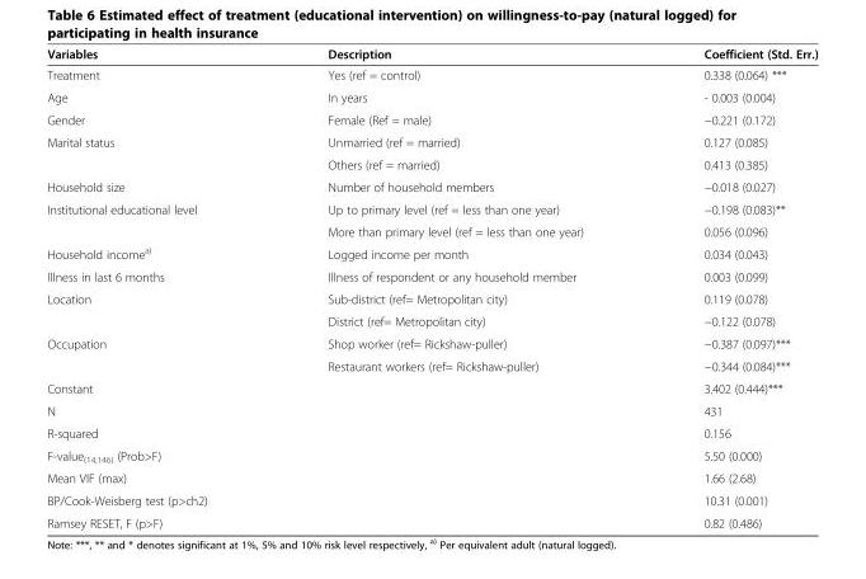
<table><thead><tr><td>Variables</td><td>Description</td><td>Coefficient (Std. Err.)</td></tr></thead><tbody><tr><td>Treatment</td><td>Yes (ref = control)</td><td>0.338 (0.064) ***</td></tr><tr><td>Age</td><td>In years</td><td>- 0.003 (0.004)</td></tr><tr><td>Gender</td><td>Female (Ref = male)</td><td>−0.221 (0.172)</td></tr><tr><td rowspan="2">Marital status</td><td>Unmarried (ref = married)</td><td>0.127 (0.085)</td></tr><tr><td>Others (ref = married)</td><td>0.413 (0.385)</td></tr><tr><td>Household size</td><td>Number of household members</td><td>−0.018 (0.027)</td></tr><tr><td rowspan="2">Institutional educational level</td><td>Up to primary level (ref = less than one year)</td><td>−0.198 (0.083)**</td></tr><tr><td>More than primary level (ref = less than one year)</td><td>0.056 (0.096)</td></tr><tr><td>Household income<sup>a)</sup></td><td>Logged income per month</td><td>0.034 (0.043)</td></tr><tr><td>Illness in last 6 months</td><td>Illness of respondent or any household member</td><td>0.003 (0.099)</td></tr><tr><td rowspan="2">Location</td><td>Sub-district (ref= Metropolitan city)</td><td>0.119 (0.078)</td></tr><tr><td>District (ref= Metropolitan city)</td><td>−0.122 (0.078)</td></tr><tr><td rowspan="2">Occupation</td><td>Shop worker (ref= Rickshaw-puller)</td><td>−0.387 (0.097)***</td></tr><tr><td>Restaurant workers (ref= Rickshaw-puller)</td><td>−0.344 (0.084)***</td></tr><tr><td>Constant</td><td></td><td>3.402 (0.444)***</td></tr><tr><td>N</td><td></td><td>431</td></tr><tr><td>R-squared</td><td></td><td>0.156</td></tr><tr><td>F-value<sub>(14,146)</sub> (Prob&gt;F)</td><td></td><td>5.50 (0.000)</td></tr><tr><td>Mean VIF (max)</td><td></td><td>1.66 (2.68)</td></tr><tr><td>BP/Cook-Weisberg test (p&gt;ch2)</td><td></td><td>10.31 (0.001)</td></tr><tr><td>Ramsey RESET, F (p&gt;F)</td><td></td><td>0.82 (0.486)</td></tr></tbody></table>